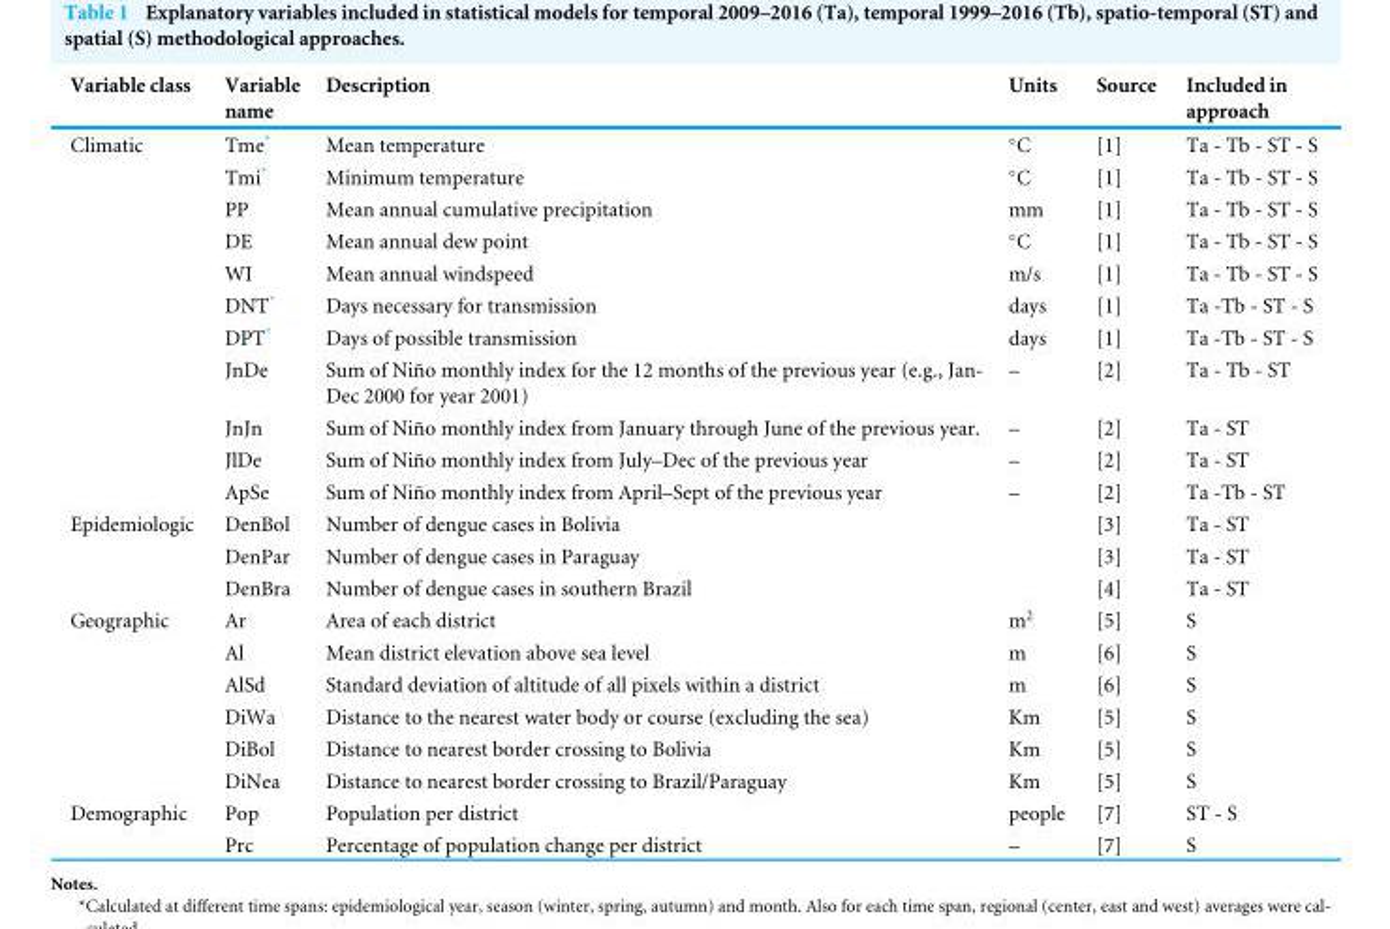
<table><thead><tr><td>Variable class</td><td>Variable name</td><td>Description</td><td>Units</td><td>Source</td><td>Included in approach</td></tr></thead><tbody><tr><td rowspan="11">Climatic</td><td>Tme*</td><td>Mean temperature</td><td>◦C</td><td>[1]</td><td>Ta - Tb - ST - S</td></tr><tr><td>Tmi*</td><td>Minimum temperature</td><td>◦C</td><td>[1]</td><td>Ta - Tb - ST - S</td></tr><tr><td>PP</td><td>Mean annual cumulative precipitation</td><td>mm</td><td>[1]</td><td>Ta - Tb - ST - S</td></tr><tr><td>DE</td><td>Mean annual dew point</td><td>◦C</td><td>[1]</td><td>Ta - Tb - ST - S</td></tr><tr><td>WI</td><td>Mean annual windspeed</td><td>m/s</td><td>[1]</td><td>Ta - Tb - ST - S</td></tr><tr><td>DNT*</td><td>Days necessary for transmission</td><td>days</td><td>[1]</td><td>Ta -Tb - ST - S</td></tr><tr><td>DPT*</td><td>Days of possible transmission</td><td>days</td><td>[1]</td><td>Ta -Tb - ST - S</td></tr><tr><td>JnDe</td><td>Sum of Niño monthly index for the 12 months of the previous year (e.g., Jan- Dec 2000 for year 2001)</td><td>–</td><td>[2]</td><td>Ta - Tb - ST</td></tr><tr><td>JnJn</td><td>Sum of Niño monthly index from January through June of the previous year.</td><td>–</td><td>[2]</td><td>Ta - ST</td></tr><tr><td>JlDe</td><td>Sum of Niño monthly index from July–Dec of the previous year</td><td>–</td><td>[2]</td><td>Ta - ST</td></tr><tr><td>ApSe</td><td>Sum of Niño monthly index from April–Sept of the previous year</td><td>–</td><td>[2]</td><td>Ta -Tb - ST</td></tr><tr><td rowspan="3">Epidemiologic</td><td>DenBol</td><td>Number of dengue cases in Bolivia</td><td></td><td>[3]</td><td>Ta - ST</td></tr><tr><td>DenPar</td><td>Number of dengue cases in Paraguay</td><td></td><td>[3]</td><td>Ta - ST</td></tr><tr><td>DenBra</td><td>Number of dengue cases in southern Brazil</td><td></td><td>[4]</td><td>Ta - ST</td></tr><tr><td rowspan="6">Geographic</td><td>Ar</td><td>Area of each district</td><td>m<sup>2</sup></td><td>[5]</td><td>S</td></tr><tr><td>Al</td><td>Mean district elevation above sea level</td><td>m</td><td>[6]</td><td>S</td></tr><tr><td>AlSd</td><td>Standard deviation of altitude of all pixels within a district</td><td>m</td><td>[6]</td><td>S</td></tr><tr><td>DiWa</td><td>Distance to the nearest water body or course (excluding the sea)</td><td>Km</td><td>[5]</td><td>S</td></tr><tr><td>DiBol</td><td>Distance to nearest border crossing to Bolivia</td><td>Km</td><td>[5]</td><td>S</td></tr><tr><td>DiNea</td><td>Distance to nearest border crossing to Brazil/Paraguay</td><td>Km</td><td>[5]</td><td>S</td></tr><tr><td rowspan="2">Demographic</td><td>Pop</td><td>Population per district</td><td>people</td><td>[7]</td><td>ST - S</td></tr><tr><td>Prc</td><td>Percentage of population change per district</td><td>–</td><td>[7]</td><td>S</td></tr></tbody></table>